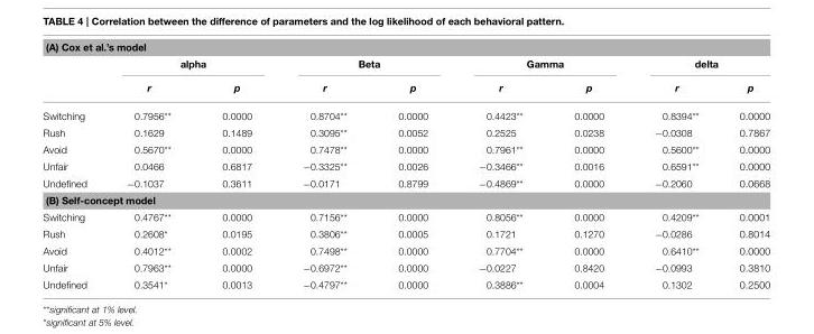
<table><thead><tr><td colspan="9">(A) Cox et al.’s model</td></tr><tr><td rowspan="2"></td><td colspan="2">alpha</td><td colspan="2">Beta</td><td colspan="2">Gamma</td><td colspan="2">delta</td></tr><tr><td>r</td><td>p</td><td>r</td><td>p</td><td>r</td><td>p</td><td>r</td><td>p</td></tr></thead><tbody><tr><td>Switching</td><td>0.7956**</td><td>0.0000</td><td>0.8704**</td><td>0.0000</td><td>0.4423**</td><td>0.0000</td><td>0.8394**</td><td>0.0000</td></tr><tr><td>Rush</td><td>0.1629</td><td>0.1489</td><td>0.3095**</td><td>0.0052</td><td>0.2525</td><td>0.0238</td><td>−0.0308</td><td>0.7867</td></tr><tr><td>Avoid</td><td>0.5670**</td><td>0.0000</td><td>0.7478**</td><td>0.0000</td><td>0.7961**</td><td>0.0000</td><td>0.5600**</td><td>0.0000</td></tr><tr><td>Unfair</td><td>0.0466</td><td>0.6817</td><td>−0.3325**</td><td>0.0026</td><td>−0.3466**</td><td>0.0016</td><td>0.6591**</td><td>0.0000</td></tr><tr><td>Undefined</td><td>−0.1037</td><td>0.3611</td><td>−0.0171</td><td>0.8799</td><td>−0.4869**</td><td>0.0000</td><td>−0.2060</td><td>0.0668</td></tr><tr><td colspan="9">(B) Self-concept model</td></tr><tr><td>Switching</td><td>0.4767**</td><td>0.0000</td><td>0.7156**</td><td>0.0000</td><td>0.8056**</td><td>0.0000</td><td>0.4209**</td><td>0.0001</td></tr><tr><td>Rush</td><td>0.2608*</td><td>0.0195</td><td>0.3806**</td><td>0.0005</td><td>0.1721</td><td>0.1270</td><td>−0.0286</td><td>0.8014</td></tr><tr><td>Avoid</td><td>0.4012**</td><td>0.0002</td><td>0.7498**</td><td>0.0000</td><td>0.7704**</td><td>0.0000</td><td>0.6410**</td><td>0.0000</td></tr><tr><td>Unfair</td><td>0.7963**</td><td>0.0000</td><td>−0.6972**</td><td>0.0000</td><td>−0.0227</td><td>0.8420</td><td>−0.0993</td><td>0.3810</td></tr><tr><td>Undefined</td><td>0.3541*</td><td>0.0013</td><td>−0.4797**</td><td>0.0000</td><td>0.3886**</td><td>0.0004</td><td>0.1302</td><td>0.2500</td></tr></tbody></table>